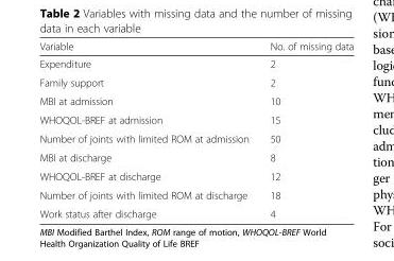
<table><thead><tr><td>Variable</td><td>No. of missing data</td></tr></thead><tbody><tr><td>Expenditure</td><td>2</td></tr><tr><td>Family support</td><td>2</td></tr><tr><td>MBI at admission</td><td>10</td></tr><tr><td>WHOQOL-BREF at admission</td><td>15</td></tr><tr><td>Number of joints with limited ROM at admission</td><td>50</td></tr><tr><td>MBI at discharge</td><td>8</td></tr><tr><td>WHOQOL-BREF at discharge</td><td>12</td></tr><tr><td>Number of joints with limited ROM at discharge</td><td>18</td></tr><tr><td>Work status after discharge</td><td>4</td></tr></tbody></table>